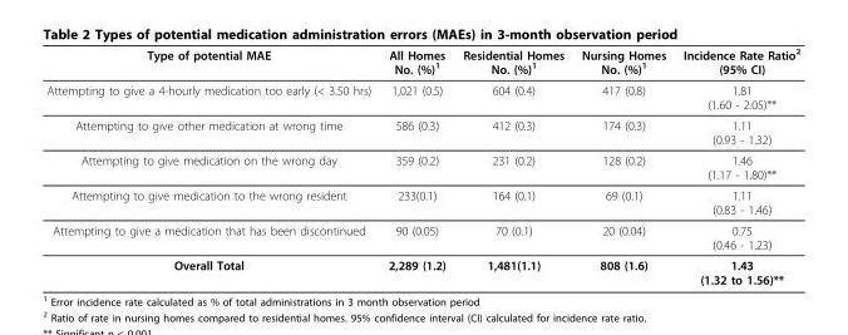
<table><thead><tr><td>Type of potential MAE</td><td>All Homes No. (%)<sup>1</sup></td><td>Residential Homes No. (%)<sup>1</sup></td><td>Nursing Homes No. (%)<sup>1</sup></td><td>Incidence Rate Ratio<sup>2</sup> (95% CI)</td></tr></thead><tbody><tr><td>Attempting to give a 4-hourly medication too early (&lt; 3.50 hrs)</td><td>1,021 (0.5)</td><td>604 (0.4)</td><td>417 (0.8)</td><td>1.81 (1.60 - 2.05)**</td></tr><tr><td>Attempting to give other medication at wrong time</td><td>586 (0.3)</td><td>412 (0.3)</td><td>174 (0.3)</td><td>1.11 (0.93 - 1.32)</td></tr><tr><td>Attempting to give medication on the wrong day</td><td>359 (0.2)</td><td>231 (0.2)</td><td>128 (0.2)</td><td>1.46 (1.17 - 1.80)**</td></tr><tr><td>Attempting to give medication to the wrong resident</td><td>233(0.1)</td><td>164 (0.1)</td><td>69 (0.1)</td><td>1.11 (0.83 - 1.46)</td></tr><tr><td>Attempting to give a medication that has been discontinued</td><td>90 (0.05)</td><td>70 (0.1)</td><td>20 (0.04)</td><td>0.75 (0.46 - 1.23)</td></tr><tr><td>Overall Total</td><td>2,289 (1.2)</td><td>1,481(1.1)</td><td>808 (1.6)</td><td>1.43 (1.32 to 1.56)**</td></tr></tbody></table>